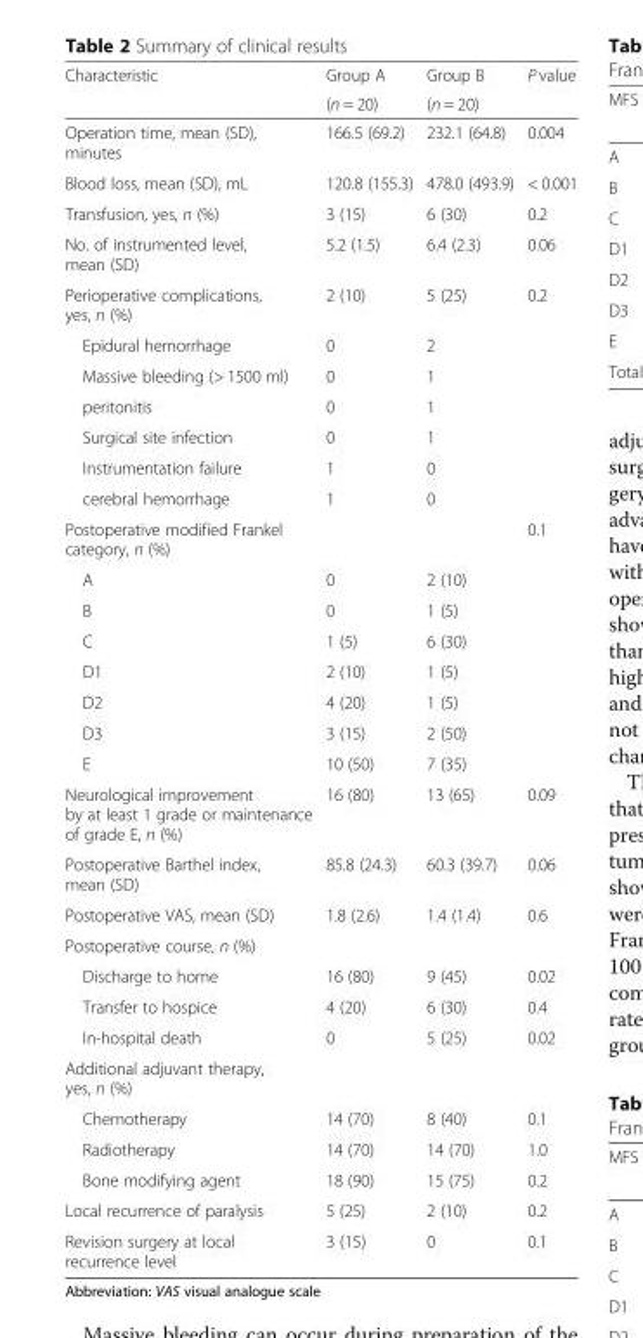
<table><thead><tr><td rowspan="2">Characteristic</td><td rowspan="2">Group A (n = 20)</td><td rowspan="2">Group B (n = 20)</td><td rowspan="2">P value</td></tr><tr></tr></thead><tbody><tr><td>Operation time, mean (SD), minutes</td><td>166.5 (69.2)</td><td>232.1 (64.8)</td><td>0.004</td></tr><tr><td>Blood loss, mean (SD), mL</td><td>120.8 (155.3)</td><td>478.0 (493.9)</td><td>&lt; 0.001</td></tr><tr><td>Transfusion, yes, n (%)</td><td>3 (15)</td><td>6 (30)</td><td>0.2</td></tr><tr><td>No. of instrumented level, mean (SD)</td><td>5.2 (1.5)</td><td>6.4 (2.3)</td><td>0.06</td></tr><tr><td>Perioperative complications, yes, n (%)</td><td>2 (10)</td><td>5 (25)</td><td>0.2</td></tr><tr><td>Epidural hemorrhage</td><td>0</td><td>2</td><td></td></tr><tr><td>Massive bleeding (&gt; 1500 ml)</td><td>0</td><td>1</td><td></td></tr><tr><td>peritonitis</td><td>0</td><td>1</td><td></td></tr><tr><td>Surgical site infection</td><td>0</td><td>1</td><td></td></tr><tr><td>Instrumentation failure</td><td>1</td><td>0</td><td></td></tr><tr><td>cerebral hemorrhage</td><td>1</td><td>0</td><td></td></tr><tr><td>Postoperative modified Frankel category, n (%)</td><td></td><td></td><td>0.1</td></tr><tr><td>A</td><td>0</td><td>2 (10)</td><td></td></tr><tr><td>B</td><td>0</td><td>1 (5)</td><td></td></tr><tr><td>C</td><td>1 (5)</td><td>6 (30)</td><td></td></tr><tr><td>D1</td><td>2 (10)</td><td>1 (5)</td><td></td></tr><tr><td>D2</td><td>4 (20)</td><td>1 (5)</td><td></td></tr><tr><td>D3</td><td>3 (15)</td><td>2 (50)</td><td></td></tr><tr><td>E</td><td>10 (50)</td><td>7 (35)</td><td></td></tr><tr><td>Neurological improvement by at least 1 grade or maintenance of grade E, n (%)</td><td>16 (80)</td><td>13 (65)</td><td>0.09</td></tr><tr><td>Postoperative Barthel index, mean (SD)</td><td>85.8 (24.3)</td><td>60.3 (39.7)</td><td>0.06</td></tr><tr><td>Postoperative VAS, mean (SD)</td><td>1.8 (2.6)</td><td>1.4 (1.4)</td><td>0.6</td></tr><tr><td colspan="4">Postoperative course, n (%)</td></tr><tr><td>Discharge to home</td><td>16 (80)</td><td>9 (45)</td><td>0.02</td></tr><tr><td>Transfer to hospice</td><td>4 (20)</td><td>6 (30)</td><td>0.4</td></tr><tr><td>In-hospital death</td><td>0</td><td>5 (25)</td><td>0.02</td></tr><tr><td colspan="4">Additional adjuvant therapy, yes, n (%)</td></tr><tr><td>Chemotherapy</td><td>14 (70)</td><td>8 (40)</td><td>0.1</td></tr><tr><td>Radiotherapy</td><td>14 (70)</td><td>14 (70)</td><td>1.0</td></tr><tr><td>Bone modifying agent</td><td>18 (90)</td><td>15 (75)</td><td>0.2</td></tr><tr><td>Local recurrence of paralysis</td><td>5 (25)</td><td>2 (10)</td><td>0.2</td></tr><tr><td>Revision surgery at local recurrence level</td><td>3 (15)</td><td>0</td><td>0.1</td></tr></tbody></table>